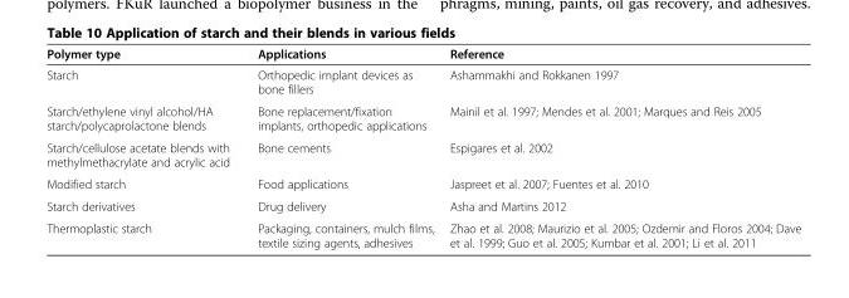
<table><thead><tr><td>Polymer type</td><td>Applications</td><td>Reference</td></tr></thead><tbody><tr><td>Starch</td><td>Orthopedic implant devices as bone fillers</td><td>Ashammakhi and Rokkanen 1997</td></tr><tr><td>Starch/ethylene vinyl alcohol/HA starch/polycaprolactone blends</td><td>Bone replacement/fixation implants, orthopedic applications</td><td>Mainil et al. 1997; Mendes et al. 2001; Marques and Reis 2005</td></tr><tr><td>Starch/cellulose acetate blends with methylmethacrylate and acrylic acid</td><td>Bone cements</td><td>Espigares et al. 2002</td></tr><tr><td>Modified starch</td><td>Food applications</td><td>Jaspreet et al. 2007; Fuentes et al. 2010</td></tr><tr><td>Starch derivatives</td><td>Drug delivery</td><td>Asha and Martins 2012</td></tr><tr><td>Thermoplastic starch</td><td>Packaging, containers, mulch films, textile sizing agents, adhesives</td><td>Zhao et al. 2008; Maurizio et al. 2005; Ozdemir and Floros 2004; Dave et al. 1999; Guo et al. 2005; Kumbar et al. 2001; Li et al. 2011</td></tr></tbody></table>